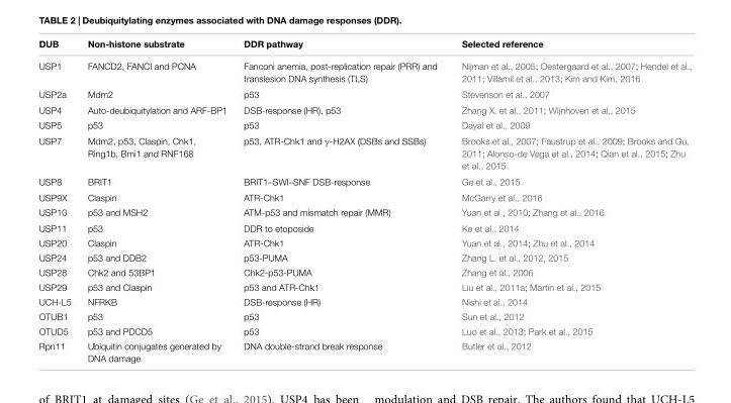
<table><thead><tr><td>DUB</td><td>Non-histone substrate</td><td>DDR pathway</td><td>Selected reference</td></tr></thead><tbody><tr><td>USP1</td><td>FANCD2, FANCI and PCNA</td><td>Fanconi anemia, post-replication repair (PRR) and translesion DNA synthesis (TLS)</td><td>Nijman et al., 2005; Oestergaard et al., 2007; Hendel et al., 2011; Villamil et al., 2013; Kim and Kim, 2016</td></tr><tr><td>USP2a</td><td>Mdm2</td><td>p53</td><td>Stevenson et al., 2007</td></tr><tr><td>USP4</td><td>Auto-deubiquitylation and ARF-BP1</td><td>DSB-response (HR), p53</td><td>Zhang X. et al., 2011; Wijnhoven et al., 2015</td></tr><tr><td>USP5</td><td>p53</td><td>p53</td><td>Dayal et al., 2009</td></tr><tr><td>USP7</td><td>Mdm2, p53, Claspin, Chk1, Ring1b, Bmi1 and RNF168</td><td>p53, ATR-Chk1 and γ-H2AX (DSBs and SSBs)</td><td>Brooks et al., 2007; Faustrup et al., 2009; Brooks and Gu, 2011; Alonso-de Vega et al., 2014; Qian et al., 2015; Zhu et al., 2015</td></tr><tr><td>USP8</td><td>BRIT1</td><td>BRIT1–SWI–SNF DSB-response</td><td>Ge et al., 2015</td></tr><tr><td>USP9X</td><td>Claspin</td><td>ATR-Chk1</td><td>McGarry et al., 2016</td></tr><tr><td>USP10</td><td>p53 and MSH2</td><td>ATM-p53 and mismatch repair (MMR)</td><td>Yuan et al., 2010; Zhang et al., 2016</td></tr><tr><td>USP11</td><td>p53</td><td>DDR to etoposide</td><td>Ke et al., 2014</td></tr><tr><td>USP20</td><td>Claspin</td><td>ATR-Chk1</td><td>Yuan et al., 2014; Zhu et al., 2014</td></tr><tr><td>USP24</td><td>p53 and DDB2</td><td>p53-PUMA</td><td>Zhang L. et al., 2012, 2015</td></tr><tr><td>USP28</td><td>Chk2 and 53BP1</td><td>Chk2-p53-PUMA</td><td>Zhang et al., 2006</td></tr><tr><td>USP29</td><td>p53 and Claspin</td><td>p53 and ATR-Chk1</td><td>Liu et al., 2011a; Martin et al., 2015</td></tr><tr><td>UCH-L5</td><td>NFRKB</td><td>DSB-response (HR)</td><td>Nishi et al., 2014</td></tr><tr><td>OTUB1</td><td>p53</td><td>p53</td><td>Sun et al., 2012</td></tr><tr><td>OTUD5</td><td>p53 and PDCD5</td><td>p53</td><td>Luo et al., 2013; Park et al., 2015</td></tr><tr><td>Rpn11</td><td>Ubiquitin conjugates generated by DNA damage</td><td>DNA double-strand break response</td><td>Butler et al., 2012</td></tr></tbody></table>